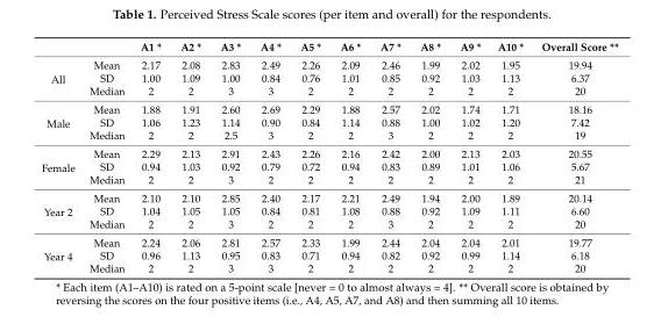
<table><thead><tr><td></td><td></td><td>A1 *</td><td>A2 *</td><td>A3 *</td><td>A4 *</td><td>A5 *</td><td>A6 *</td><td>A7 *</td><td>A8 *</td><td>A9 *</td><td>A10 *</td><td>Overall Score **</td></tr></thead><tbody><tr><td rowspan="3">All</td><td>Mean</td><td>2.17</td><td>2.08</td><td>2.83</td><td>2.49</td><td>2.26</td><td>2.09</td><td>2.46</td><td>1.99</td><td>2.02</td><td>1.95</td><td>19.94</td></tr><tr><td>SD</td><td>1.00</td><td>1.09</td><td>1.00</td><td>0.84</td><td>0.76</td><td>1.01</td><td>0.85</td><td>0.92</td><td>1.03</td><td>1.13</td><td>6.37</td></tr><tr><td>Median</td><td>2</td><td>2</td><td>3</td><td>3</td><td>2</td><td>2</td><td>2</td><td>2</td><td>2</td><td>2</td><td>20</td></tr><tr><td rowspan="3">Male</td><td>Mean</td><td>1.88</td><td>1.91</td><td>2.60</td><td>2.69</td><td>2.29</td><td>1.88</td><td>2.57</td><td>2.02</td><td>1.74</td><td>1.71</td><td>18.16</td></tr><tr><td>SD</td><td>1.06</td><td>1.23</td><td>1.14</td><td>0.90</td><td>0.84</td><td>1.14</td><td>0.88</td><td>1.00</td><td>1.02</td><td>1.20</td><td>7.42</td></tr><tr><td>Median</td><td>2</td><td>2</td><td>2.5</td><td>3</td><td>2</td><td>2</td><td>3</td><td>2</td><td>2</td><td>2</td><td>19</td></tr><tr><td rowspan="3">Female</td><td>Mean</td><td>2.29</td><td>2.13</td><td>2.91</td><td>2.43</td><td>2.26</td><td>2.16</td><td>2.42</td><td>2.00</td><td>2.13</td><td>2.03</td><td>20.55</td></tr><tr><td>SD</td><td>0.94</td><td>1.03</td><td>0.92</td><td>0.79</td><td>0.72</td><td>0.94</td><td>0.83</td><td>0.89</td><td>1.01</td><td>1.06</td><td>5.67</td></tr><tr><td>Median</td><td>2</td><td>2</td><td>3</td><td>2</td><td>2</td><td>2</td><td>2</td><td>2</td><td>2</td><td>2</td><td>21</td></tr><tr><td rowspan="3">Year 2</td><td>Mean</td><td>2.10</td><td>2.10</td><td>2.85</td><td>2.40</td><td>2.17</td><td>2.21</td><td>2.49</td><td>1.94</td><td>2.00</td><td>1.89</td><td>20.14</td></tr><tr><td>SD</td><td>1.04</td><td>1.05</td><td>1.05</td><td>0.84</td><td>0.81</td><td>1.08</td><td>0.88</td><td>0.92</td><td>1.09</td><td>1.11</td><td>6.60</td></tr><tr><td>Median</td><td>2</td><td>2</td><td>3</td><td>2</td><td>2</td><td>2</td><td>3</td><td>2</td><td>2</td><td>2</td><td>20</td></tr><tr><td rowspan="3">Year 4</td><td>Mean</td><td>2.24</td><td>2.06</td><td>2.81</td><td>2.57</td><td>2.33</td><td>1.99</td><td>2.44</td><td>2.04</td><td>2.04</td><td>2.01</td><td>19.77</td></tr><tr><td>SD</td><td>0.96</td><td>1.13</td><td>0.95</td><td>0.83</td><td>0.71</td><td>0.94</td><td>0.82</td><td>0.92</td><td>0.99</td><td>1.14</td><td>6.18</td></tr><tr><td>Median</td><td>2</td><td>2</td><td>3</td><td>3</td><td>2</td><td>2</td><td>2</td><td>2</td><td>2</td><td>2</td><td>20</td></tr></tbody></table>